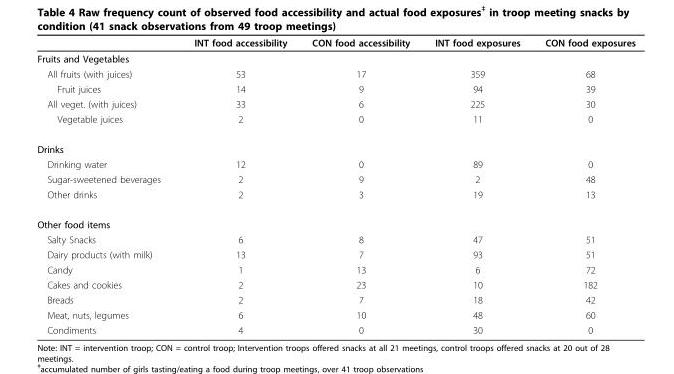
<table><thead><tr><td></td><td>INT food accessibility</td><td>CON food accessibility</td><td>INT food exposures</td><td>CON food exposures</td></tr></thead><tbody><tr><td colspan="5">Fruits and Vegetables</td></tr><tr><td>All fruits (with juices)</td><td>53</td><td>17</td><td>359</td><td>68</td></tr><tr><td>Fruit juices</td><td>14</td><td>9</td><td>94</td><td>39</td></tr><tr><td>All veget. (with juices)</td><td>33</td><td>6</td><td>225</td><td>30</td></tr><tr><td>Vegetable juices</td><td>2</td><td>0</td><td>11</td><td>0</td></tr><tr><td colspan="5">Drinks</td></tr><tr><td>Drinking water</td><td>12</td><td>0</td><td>89</td><td>0</td></tr><tr><td>Sugar-sweetened beverages</td><td>2</td><td>9</td><td>2</td><td>48</td></tr><tr><td>Other drinks</td><td>2</td><td>3</td><td>19</td><td>13</td></tr><tr><td colspan="5">Other food items</td></tr><tr><td>Salty Snacks</td><td>6</td><td>8</td><td>47</td><td>51</td></tr><tr><td>Dairy products (with milk)</td><td>13</td><td>7</td><td>93</td><td>51</td></tr><tr><td>Candy</td><td>1</td><td>13</td><td>6</td><td>72</td></tr><tr><td>Cakes and cookies</td><td>2</td><td>23</td><td>10</td><td>182</td></tr><tr><td>Breads</td><td>2</td><td>7</td><td>18</td><td>42</td></tr><tr><td>Meat, nuts, legumes</td><td>6</td><td>10</td><td>48</td><td>60</td></tr><tr><td>Condiments</td><td>4</td><td>0</td><td>30</td><td>0</td></tr></tbody></table>